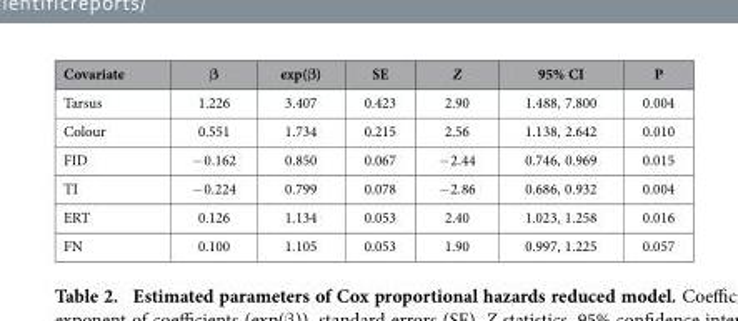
<table><thead><tr><td>Covariate</td><td>β</td><td>exp(β)</td><td>SE</td><td>Z</td><td>95% CI</td><td>P</td></tr></thead><tbody><tr><td>Tarsus</td><td>1.226</td><td>3.407</td><td>0.423</td><td>2.90</td><td>1.488, 7.800</td><td>0.004</td></tr><tr><td>Colour</td><td>0.551</td><td>1.734</td><td>0.215</td><td>2.56</td><td>1.138, 2.642</td><td>0.010</td></tr><tr><td>FID</td><td>− 0.162</td><td>0.850</td><td>0.067</td><td>− 2.44</td><td>0.746, 0.969</td><td>0.015</td></tr><tr><td>TI</td><td>− 0.224</td><td>0.799</td><td>0.078</td><td>− 2.86</td><td>0.686, 0.932</td><td>0.004</td></tr><tr><td>ERT</td><td>0.126</td><td>1.134</td><td>0.053</td><td>2.40</td><td>1.023, 1.258</td><td>0.016</td></tr><tr><td>FN</td><td>0.100</td><td>1.105</td><td>0.053</td><td>1.90</td><td>0.997, 1.225</td><td>0.057</td></tr></tbody></table>